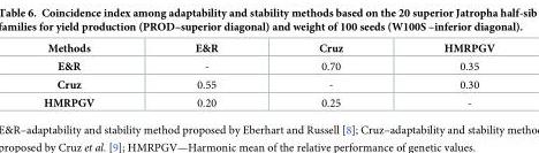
<table><tbody><tr><td>Methods</td><td>E&amp;R</td><td>Cruz</td><td>HMRPGV</td></tr><tr><td>E&amp;R</td><td>-</td><td>0.70</td><td>0.35</td></tr><tr><td>Cruz</td><td>0.55</td><td>-</td><td>0.30</td></tr><tr><td>HMRPGV</td><td>0.20</td><td>0.25</td><td>-</td></tr></tbody></table>